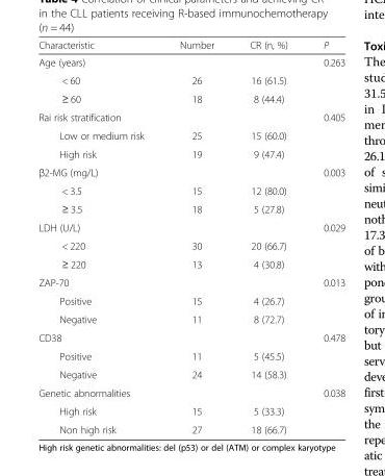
<table><thead><tr><td>Characteristic</td><td>Number</td><td>CR (n, %)</td><td>P</td></tr></thead><tbody><tr><td>Age (years)</td><td></td><td></td><td>0.263</td></tr><tr><td>&lt; 60</td><td>26</td><td>16 (61.5)</td><td></td></tr><tr><td>≥ 60</td><td>18</td><td>8 (44.4)</td><td></td></tr><tr><td>Rai risk stratification</td><td></td><td></td><td>0.405</td></tr><tr><td>Low or medium risk</td><td>25</td><td>15 (60.0)</td><td></td></tr><tr><td>High risk</td><td>19</td><td>9 (47.4)</td><td></td></tr><tr><td>β2-MG (mg/L)</td><td></td><td></td><td>0.003</td></tr><tr><td>&lt; 3.5</td><td>15</td><td>12 (80.0)</td><td></td></tr><tr><td>≥ 3.5</td><td>18</td><td>5 (27.8)</td><td></td></tr><tr><td>LDH (U/L)</td><td></td><td></td><td>0.029</td></tr><tr><td>&lt; 220</td><td>30</td><td>20 (66.7)</td><td></td></tr><tr><td>≥ 220</td><td>13</td><td>4 (30.8)</td><td></td></tr><tr><td>ZAP-70</td><td></td><td></td><td>0.013</td></tr><tr><td>Positive</td><td>15</td><td>4 (26.7)</td><td></td></tr><tr><td>Negative</td><td>11</td><td>8 (72.7)</td><td></td></tr><tr><td>CD38</td><td></td><td></td><td>0.478</td></tr><tr><td>Positive</td><td>11</td><td>5 (45.5)</td><td></td></tr><tr><td>Negative</td><td>24</td><td>14 (58.3)</td><td></td></tr><tr><td>Genetic abnormalities</td><td></td><td></td><td>0.038</td></tr><tr><td>High risk</td><td>15</td><td>5 (33.3)</td><td></td></tr><tr><td>Non high risk</td><td>27</td><td>18 (66.7)</td><td></td></tr></tbody></table>